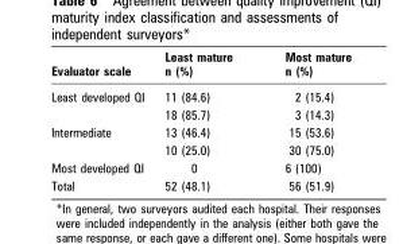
<table><thead><tr><td>Evaluator scale</td><td>Least mature n (%)</td><td>Most mature n (%)</td></tr></thead><tbody><tr><td rowspan="2">Least developed QI</td><td>11 (84.6)</td><td>2 (15.4)</td></tr><tr><td>18 (85.7)</td><td>3 (14.3)</td></tr><tr><td rowspan="2">Intermediate</td><td>13 (46.4)</td><td>15 (53.6)</td></tr><tr><td>10 (25.0)</td><td>30 (75.0)</td></tr><tr><td>Most developed QI</td><td>0</td><td>6 (100)</td></tr><tr><td>Total</td><td>52 (48.1)</td><td>56 (51.9)</td></tr></tbody></table>